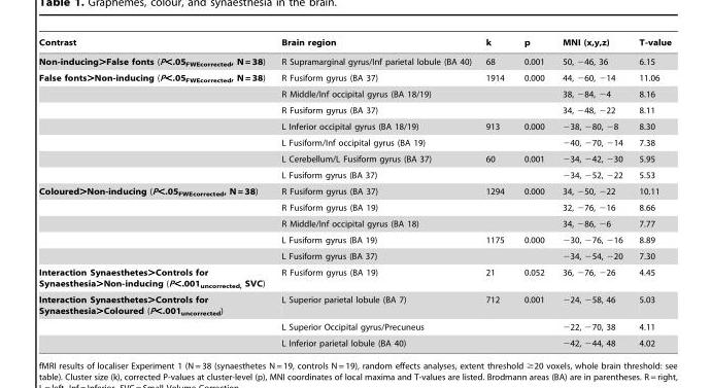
<table><thead><tr><td>Contrast</td><td>Brain region</td><td>k</td><td>p</td><td>MNI (x,y,z)</td><td>T-value</td></tr></thead><tbody><tr><td>Non-inducing&gt;False fonts (P&lt;.05<sub>FWEcorrected</sub>, N = 38)</td><td>R Supramarginal gyrus/Inf parietal lobule (BA 40)</td><td>68</td><td>0.001</td><td>50, −46, 36</td><td>6.15</td></tr><tr><td rowspan="7">False fonts&gt;Non-inducing (P&lt;.05<sub>FWEcorrected</sub>, N = 38)</td><td>R Fusiform gyrus (BA 37)</td><td>1914</td><td>0.000</td><td>44, −60, −14</td><td>11.06</td></tr><tr><td>R Middle/Inf occipital gyrus (BA 18/19)</td><td></td><td></td><td>38, −84, −4</td><td>8.16</td></tr><tr><td>R Fusiform gyrus (BA 37)</td><td></td><td></td><td>34, −48, −22</td><td>8.11</td></tr><tr><td>L Inferior occipital gyrus (BA 18/19)</td><td>913</td><td>0.000</td><td>−38, −80, −8</td><td>8.30</td></tr><tr><td>L Fusiform/Inf occipital gyrus (BA 19)</td><td></td><td></td><td>−40, −70, −14</td><td>7.38</td></tr><tr><td>L Cerebellum/L Fusiform gyrus (BA 37)</td><td>60</td><td>0.001</td><td>−34, −42, −30</td><td>5.95</td></tr><tr><td>L Fusiform gyrus (BA 37)</td><td></td><td></td><td>−34, −52, −22</td><td>5.53</td></tr><tr><td rowspan="5">Coloured&gt;Non-inducing (P&lt;.05<sub>FWEcorrected</sub>, N = 38)</td><td>R Fusiform gyrus (BA 37)</td><td>1294</td><td>0.000</td><td>34, −50, −22</td><td>10.11</td></tr><tr><td>R Fusiform gyrus (BA 19)</td><td></td><td></td><td>32, −76, −16</td><td>8.66</td></tr><tr><td>R Middle/Inf occipital gyrus (BA 18)</td><td></td><td></td><td>34, −86, −6</td><td>7.77</td></tr><tr><td>L Fusiform gyrus (BA 19)</td><td>1175</td><td>0.000</td><td>−30, −76, −16</td><td>8.89</td></tr><tr><td>L Fusiform gyrus (BA 37)</td><td></td><td></td><td>−34, −54, −20</td><td>7.30</td></tr><tr><td>Interaction Synaesthetes&gt;Controls for Synaesthesia&gt;Non-inducing (P&lt;.001<sub>uncorrected,</sub> SVC)</td><td>R Fusiform gyrus (BA 19)</td><td>21</td><td>0.052</td><td>36, −76, −26</td><td>4.45</td></tr><tr><td rowspan="3">Interaction Synaesthetes&gt;Controls for Synaesthesia&gt;Coloured (P&lt;.001<sub>uncorrected</sub>)</td><td>L Superior parietal lobule (BA 7)</td><td>712</td><td>0.001</td><td>−24, −58, 46</td><td>5.03</td></tr><tr><td>L Superior Occipital gyrus/Precuneus</td><td></td><td></td><td>−22, −70, 38</td><td>4.11</td></tr><tr><td>L Inferior parietal lobule (BA 40)</td><td></td><td></td><td>−42, −44, 48</td><td>4.02</td></tr></tbody></table>